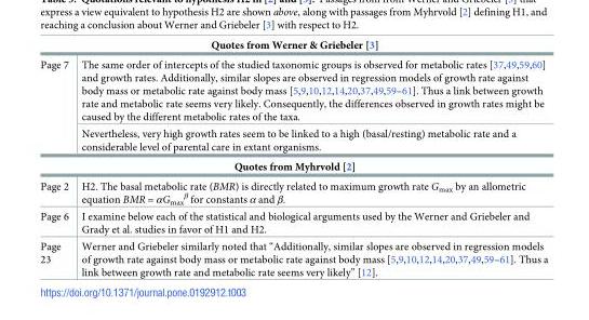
<table><tbody><tr><td colspan="2">Quotes from Werner &amp; Griebeler [3]</td></tr><tr><td rowspan="2">Page 7</td><td>The same order of intercepts of the studied taxonomic groups is observed for metabolic rates [37,49,59,60] and growth rates. Additionally, similar slopes are observed in regression models of growth rate against body mass or metabolic rate against body mass [5,9,10,12,14,20,37,49,59–61]. Thus a link between growth rate and metabolic rate seems very likely. Consequently, the differences observed in growth rates might be caused by the different metabolic rates of the taxa.</td></tr><tr><td>Nevertheless, very high growth rates seem to be linked to a high (basal/resting) metabolic rate and a considerable level of parental care in extant organisms.</td></tr><tr><td colspan="2">Quotes from Myhrvold [2]</td></tr><tr><td>Page 2</td><td>H2. The basal metabolic rate (BMR) is directly related to maximum growth rate G<sub>max</sub> by an allometric equation BMR = αG<sub>max</sub> <sup>β</sup> for constants α and β.</td></tr><tr><td>Page 6</td><td>I examine below each of the statistical and biological arguments used by the Werner and Griebeler and Grady et al. studies in favor of H1 and H2.</td></tr><tr><td>Page 23</td><td>Werner and Griebeler similarly noted that “Additionally, similar slopes are observed in regression models of growth rate against body mass or metabolic rate against body mass [5,9,10,12,14,20,37,49,59–61]. Thus a link between growth rate and metabolic rate seems very likely” [12].</td></tr></tbody></table>